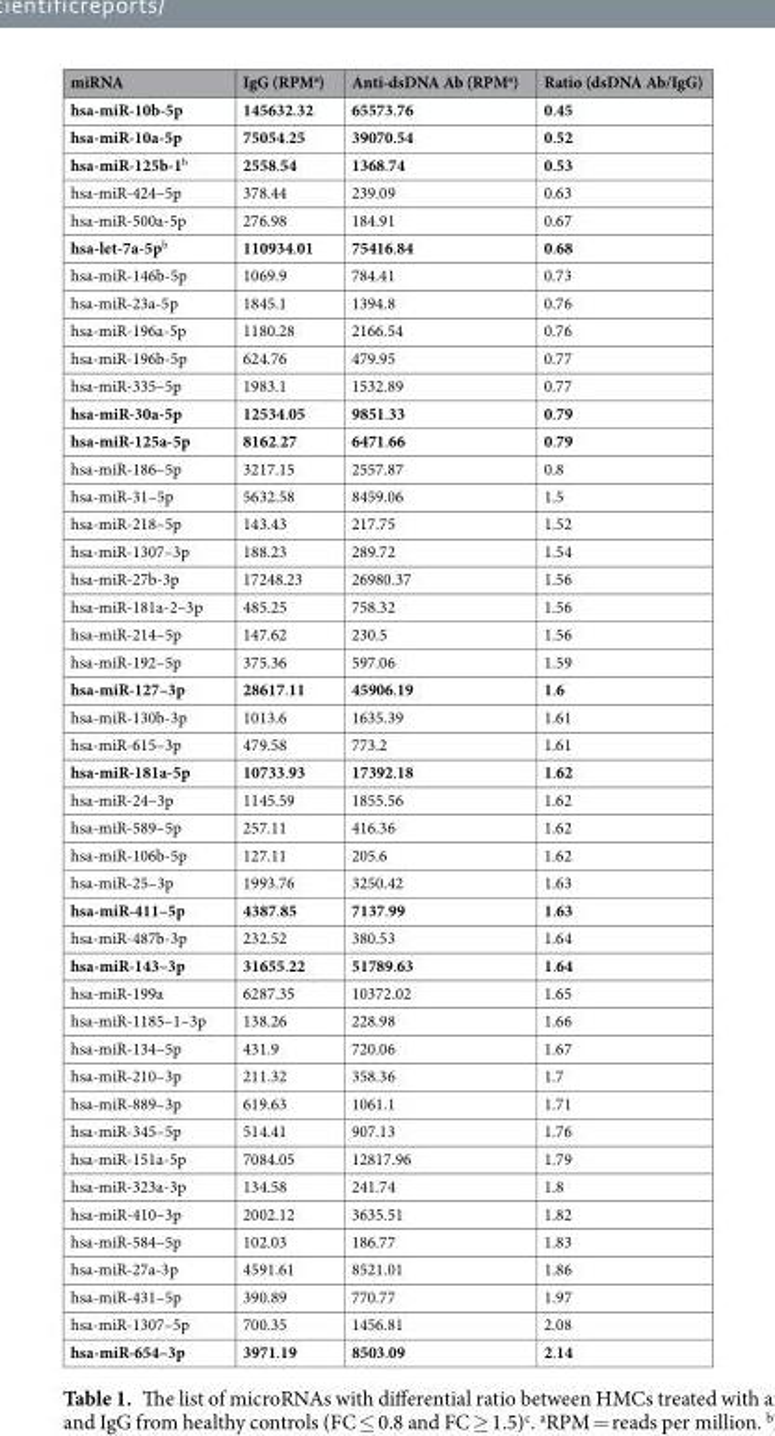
<table><thead><tr><td>miRNA</td><td>IgG (RPM<sup>a</sup>)</td><td>Anti-dsDNA Ab (RPM<sup>a</sup>)</td><td>Ratio (dsDNA Ab/IgG)</td></tr></thead><tbody><tr><td>hsa-miR-10b-5p</td><td>145632.32</td><td>65573.76</td><td>0.45</td></tr><tr><td>hsa-miR-10a-5p</td><td>75054.25</td><td>39070.54</td><td>0.52</td></tr><tr><td>hsa-miR-125b-1<sup>b</sup></td><td>2558.54</td><td>1368.74</td><td>0.53</td></tr><tr><td>hsa-miR-424–5p</td><td>378.44</td><td>239.09</td><td>0.63</td></tr><tr><td>hsa-miR-500a-5p</td><td>276.98</td><td>184.91</td><td>0.67</td></tr><tr><td>hsa-let-7a-5p<sup>b</sup></td><td>110934.01</td><td>75416.84</td><td>0.68</td></tr><tr><td>hsa-miR-146b-5p</td><td>1069.9</td><td>784.41</td><td>0.73</td></tr><tr><td>hsa-miR-23a-5p</td><td>1845.1</td><td>1394.8</td><td>0.76</td></tr><tr><td>hsa-miR-196a-5p</td><td>1180.28</td><td>2166.54</td><td>0.76</td></tr><tr><td>hsa-miR-196b-5p</td><td>624.76</td><td>479.95</td><td>0.77</td></tr><tr><td>hsa-miR-335–5p</td><td>1983.1</td><td>1532.89</td><td>0.77</td></tr><tr><td>hsa-miR-30a-5p</td><td>12534.05</td><td>9851.33</td><td>0.79</td></tr><tr><td>hsa-miR-125a-5p</td><td>8162.27</td><td>6471.66</td><td>0.79</td></tr><tr><td>hsa-miR-186–5p</td><td>3217.15</td><td>2557.87</td><td>0.8</td></tr><tr><td>hsa-miR-31–5p</td><td>5632.58</td><td>8459.06</td><td>1.5</td></tr><tr><td>hsa-miR-218–5p</td><td>143.43</td><td>217.75</td><td>1.52</td></tr><tr><td>hsa-miR-1307–3p</td><td>188.23</td><td>289.72</td><td>1.54</td></tr><tr><td>hsa-miR-27b-3p</td><td>17248.23</td><td>26980.37</td><td>1.56</td></tr><tr><td>hsa-miR-181a-2–3p</td><td>485.25</td><td>758.32</td><td>1.56</td></tr><tr><td>hsa-miR-214–5p</td><td>147.62</td><td>230.5</td><td>1.56</td></tr><tr><td>hsa-miR-192–5p</td><td>375.36</td><td>597.06</td><td>1.59</td></tr><tr><td>hsa-miR-127–3p</td><td>28617.11</td><td>45906.19</td><td>1.6</td></tr><tr><td>hsa-miR-130b-3p</td><td>1013.6</td><td>1635.39</td><td>1.61</td></tr><tr><td>hsa-miR-615–3p</td><td>479.58</td><td>773.2</td><td>1.61</td></tr><tr><td>hsa-miR-181a-5p</td><td>10733.93</td><td>17392.18</td><td>1.62</td></tr><tr><td>hsa-miR-24–3p</td><td>1145.59</td><td>1855.56</td><td>1.62</td></tr><tr><td>hsa-miR-589–5p</td><td>257.11</td><td>416.36</td><td>1.62</td></tr><tr><td>hsa-miR-106b-5p</td><td>127.11</td><td>205.6</td><td>1.62</td></tr><tr><td>hsa-miR-25–3p</td><td>1993.76</td><td>3250.42</td><td>1.63</td></tr><tr><td>hsa-miR-411–5p</td><td>4387.85</td><td>7137.99</td><td>1.63</td></tr><tr><td>hsa-miR-487b-3p</td><td>232.52</td><td>380.53</td><td>1.64</td></tr><tr><td>hsa-miR-143–3p</td><td>31655.22</td><td>51789.63</td><td>1.64</td></tr><tr><td>hsa-miR-199a</td><td>6287.35</td><td>10372.02</td><td>1.65</td></tr><tr><td>hsa-miR-1185–1–3p</td><td>138.26</td><td>228.98</td><td>1.66</td></tr><tr><td>hsa-miR-134–5p</td><td>431.9</td><td>720.06</td><td>1.67</td></tr><tr><td>hsa-miR-210–3p</td><td>211.32</td><td>358.36</td><td>1.7</td></tr><tr><td>hsa-miR-889–3p</td><td>619.63</td><td>1061.1</td><td>1.71</td></tr><tr><td>hsa-miR-345–5p</td><td>514.41</td><td>907.13</td><td>1.76</td></tr><tr><td>hsa-miR-151a-5p</td><td>7084.05</td><td>12817.96</td><td>1.79</td></tr><tr><td>hsa-miR-323a-3p</td><td>134.58</td><td>241.74</td><td>1.8</td></tr><tr><td>hsa-miR-410–3p</td><td>2002.12</td><td>3635.51</td><td>1.82</td></tr><tr><td>hsa-miR-584–5p</td><td>102.03</td><td>186.77</td><td>1.83</td></tr><tr><td>hsa-miR-27a-3p</td><td>4591.61</td><td>8521.01</td><td>1.86</td></tr><tr><td>hsa-miR-431–5p</td><td>390.89</td><td>770.77</td><td>1.97</td></tr><tr><td>hsa-miR-1307–5p</td><td>700.35</td><td>1456.81</td><td>2.08</td></tr><tr><td>hsa-miR-654–3p</td><td>3971.19</td><td>8503.09</td><td>2.14</td></tr></tbody></table>